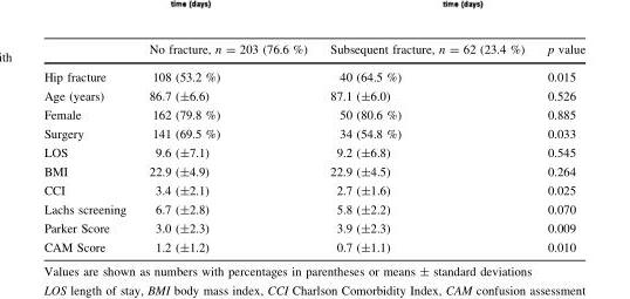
<table><thead><tr><td></td><td>No fracture, n = 203 (76.6 %)</td><td>Subsequent fracture, n = 62 (23.4 %)</td><td>p value</td></tr></thead><tbody><tr><td>Hip fracture</td><td>108 (53.2 %)</td><td>40 (64.5 %)</td><td>0.015</td></tr><tr><td>Age (years)</td><td>86.7 (±6.6)</td><td>87.1 (±6.0)</td><td>0.526</td></tr><tr><td>Female</td><td>162 (79.8 %)</td><td>50 (80.6 %)</td><td>0.885</td></tr><tr><td>Surgery</td><td>141 (69.5 %)</td><td>34 (54.8 %)</td><td>0.033</td></tr><tr><td>LOS</td><td>9.6 (±7.1)</td><td>9.2 (±6.8)</td><td>0.545</td></tr><tr><td>BMI</td><td>22.9 (±4.9)</td><td>22.9 (±4.5)</td><td>0.264</td></tr><tr><td>CCI</td><td>3.4 (±2.1)</td><td>2.7 (±1.6)</td><td>0.025</td></tr><tr><td>Lachs screening</td><td>6.7 (±2.8)</td><td>5.8 (±2.2)</td><td>0.070</td></tr><tr><td>Parker Score</td><td>3.0 (±2.3)</td><td>3.9 (±2.3)</td><td>0.009</td></tr><tr><td>CAM Score</td><td>1.2 (±1.2)</td><td>0.7 (±1.1)</td><td>0.010</td></tr></tbody></table>